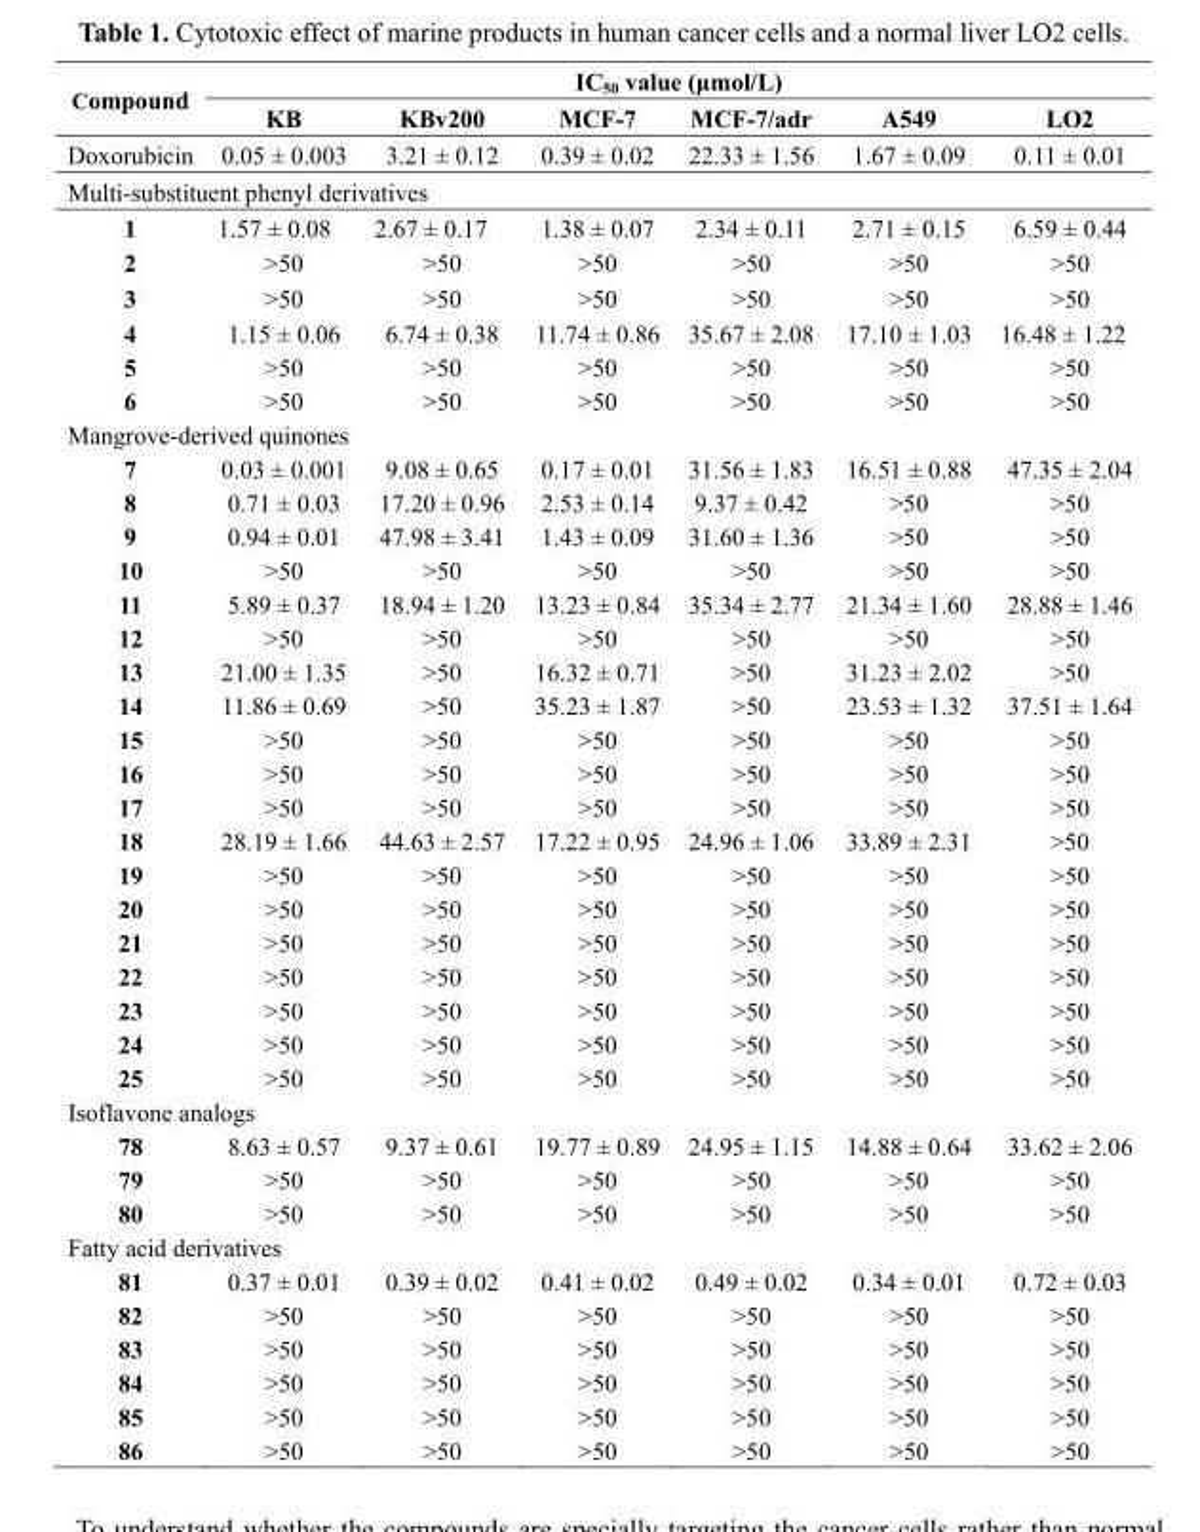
<table><thead><tr><td rowspan="2">Compound</td><td colspan="6">IC<sub>50</sub> value (μmol/L)</td></tr><tr><td>KB</td><td>KBv200</td><td>MCF-7</td><td>MCF-7/adr</td><td>A549</td><td>LO2</td></tr></thead><tbody><tr><td>Doxorubicin</td><td>0.05 ± 0.003</td><td>3.21 ± 0.12</td><td>0.39 ± 0.02</td><td>22.33 ± 1.56</td><td>1.67 ± 0.09</td><td>0.11 ± 0.01</td></tr><tr><td colspan="7">Multi-substituent phenyl derivatives</td></tr><tr><td>1</td><td>1.57 ± 0.08</td><td>2.67 ± 0.17</td><td>1.38 ± 0.07</td><td>2.34 ± 0.11</td><td>2.71 ± 0.15</td><td>6.59 ± 0.44</td></tr><tr><td>2</td><td>&gt;50</td><td>&gt;50</td><td>&gt;50</td><td>&gt;50</td><td>&gt;50</td><td>&gt;50</td></tr><tr><td>3</td><td>&gt;50</td><td>&gt;50</td><td>&gt;50</td><td>&gt;50</td><td>&gt;50</td><td>&gt;50</td></tr><tr><td>4</td><td>1.15 ± 0.06</td><td>6.74 ± 0.38</td><td>11.74 ± 0.86</td><td>35.67 ± 2.08</td><td>17.10 ± 1.03</td><td>16.48 ± 1.22</td></tr><tr><td>5</td><td>&gt;50</td><td>&gt;50</td><td>&gt;50</td><td>&gt;50</td><td>&gt;50</td><td>&gt;50</td></tr><tr><td>6</td><td>&gt;50</td><td>&gt;50</td><td>&gt;50</td><td>&gt;50</td><td>&gt;50</td><td>&gt;50</td></tr><tr><td colspan="7">Mangrove-derived quinones</td></tr><tr><td>7</td><td>0.03 ± 0.001</td><td>9.08 ± 0.65</td><td>0.17 ± 0.01</td><td>31.56 ± 1.83</td><td>16.51 ± 0.88</td><td>47.35 ± 2.04</td></tr><tr><td>8</td><td>0.71 ± 0.03</td><td>17.20 ± 0.96</td><td>2.53 ± 0.14</td><td>9.37 ± 0.42</td><td>&gt;50</td><td>&gt;50</td></tr><tr><td>9</td><td>0.94 ± 0.01</td><td>47.98 ± 3.41</td><td>1.43 ± 0.09</td><td>31.60 ± 1.36</td><td>&gt;50</td><td>&gt;50</td></tr><tr><td>10</td><td>&gt;50</td><td>&gt;50</td><td>&gt;50</td><td>&gt;50</td><td>&gt;50</td><td>&gt;50</td></tr><tr><td>11</td><td>5.89 ± 0.37</td><td>18.94 ± 1.20</td><td>13.23 ± 0.84</td><td>35.34 ± 2.77</td><td>21.34 ± 1.60</td><td>28.88 ± 1.46</td></tr><tr><td>12</td><td>&gt;50</td><td>&gt;50</td><td>&gt;50</td><td>&gt;50</td><td>&gt;50</td><td>&gt;50</td></tr><tr><td>13</td><td>21.00 ± 1.35</td><td>&gt;50</td><td>16.32 ± 0.71</td><td>&gt;50</td><td>31.23 ± 2.02</td><td>&gt;50</td></tr><tr><td>14</td><td>11.86 ± 0.69</td><td>&gt;50</td><td>35.23 ± 1.87</td><td>&gt;50</td><td>23.53 ± 1.32</td><td>37.51 ± 1.64</td></tr><tr><td>15</td><td>&gt;50</td><td>&gt;50</td><td>&gt;50</td><td>&gt;50</td><td>&gt;50</td><td>&gt;50</td></tr><tr><td>16</td><td>&gt;50</td><td>&gt;50</td><td>&gt;50</td><td>&gt;50</td><td>&gt;50</td><td>&gt;50</td></tr><tr><td>17</td><td>&gt;50</td><td>&gt;50</td><td>&gt;50</td><td>&gt;50</td><td>&gt;50</td><td>&gt;50</td></tr><tr><td>18</td><td>28.19 ± 1.66</td><td>44.63 ± 2.57</td><td>17.22 ± 0.95</td><td>24.96 ± 1.06</td><td>33.89 ± 2.31</td><td>&gt;50</td></tr><tr><td>19</td><td>&gt;50</td><td>&gt;50</td><td>&gt;50</td><td>&gt;50</td><td>&gt;50</td><td>&gt;50</td></tr><tr><td>20</td><td>&gt;50</td><td>&gt;50</td><td>&gt;50</td><td>&gt;50</td><td>&gt;50</td><td>&gt;50</td></tr><tr><td>21</td><td>&gt;50</td><td>&gt;50</td><td>&gt;50</td><td>&gt;50</td><td>&gt;50</td><td>&gt;50</td></tr><tr><td>22</td><td>&gt;50</td><td>&gt;50</td><td>&gt;50</td><td>&gt;50</td><td>&gt;50</td><td>&gt;50</td></tr><tr><td>23</td><td>&gt;50</td><td>&gt;50</td><td>&gt;50</td><td>&gt;50</td><td>&gt;50</td><td>&gt;50</td></tr><tr><td>24</td><td>&gt;50</td><td>&gt;50</td><td>&gt;50</td><td>&gt;50</td><td>&gt;50</td><td>&gt;50</td></tr><tr><td>25</td><td>&gt;50</td><td>&gt;50</td><td>&gt;50</td><td>&gt;50</td><td>&gt;50</td><td>&gt;50</td></tr><tr><td colspan="7">Isoflavone analogs</td></tr><tr><td>78</td><td>8.63 ± 0.57</td><td>9.37 ± 0.61</td><td>19.77 ± 0.89</td><td>24.95 ± 1.15</td><td>14.88 ± 0.64</td><td>33.62 ± 2.06</td></tr><tr><td>79</td><td>&gt;50</td><td>&gt;50</td><td>&gt;50</td><td>&gt;50</td><td>&gt;50</td><td>&gt;50</td></tr><tr><td>80</td><td>&gt;50</td><td>&gt;50</td><td>&gt;50</td><td>&gt;50</td><td>&gt;50</td><td>&gt;50</td></tr><tr><td colspan="7">Fatty acid derivatives</td></tr><tr><td>81</td><td>0.37 ± 0.01</td><td>0.39 ± 0.02</td><td>0.41 ± 0.02</td><td>0.49 ± 0.02</td><td>0.34 ± 0.01</td><td>0.72 ± 0.03</td></tr><tr><td>82</td><td>&gt;50</td><td>&gt;50</td><td>&gt;50</td><td>&gt;50</td><td>&gt;50</td><td>&gt;50</td></tr><tr><td>83</td><td>&gt;50</td><td>&gt;50</td><td>&gt;50</td><td>&gt;50</td><td>&gt;50</td><td>&gt;50</td></tr><tr><td>84</td><td>&gt;50</td><td>&gt;50</td><td>&gt;50</td><td>&gt;50</td><td>&gt;50</td><td>&gt;50</td></tr><tr><td>85</td><td>&gt;50</td><td>&gt;50</td><td>&gt;50</td><td>&gt;50</td><td>&gt;50</td><td>&gt;50</td></tr><tr><td>86</td><td>&gt;50</td><td>&gt;50</td><td>&gt;50</td><td>&gt;50</td><td>&gt;50</td><td>&gt;50</td></tr></tbody></table>